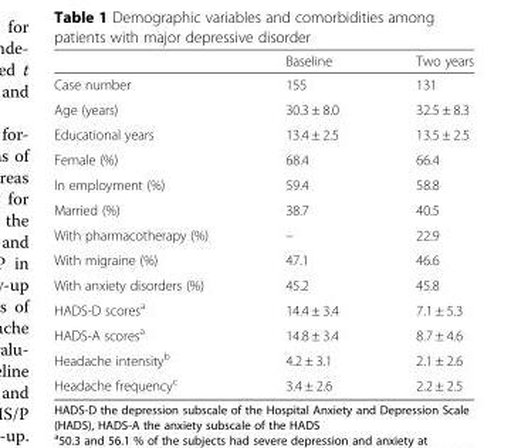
<table><thead><tr><td></td><td>Baseline</td><td>Two years</td></tr></thead><tbody><tr><td>Case number</td><td>155</td><td>131</td></tr><tr><td>Age (years)</td><td>30.3 ± 8.0</td><td>32.5 ± 8.3</td></tr><tr><td>Educational years</td><td>13.4 ± 2.5</td><td>13.5 ± 2.5</td></tr><tr><td>Female (%)</td><td>68.4</td><td>66.4</td></tr><tr><td>In employment (%)</td><td>59.4</td><td>58.8</td></tr><tr><td>Married (%)</td><td>38.7</td><td>40.5</td></tr><tr><td>With pharmacotherapy (%)</td><td>–</td><td>22.9</td></tr><tr><td>With migraine (%)</td><td>47.1</td><td>46.6</td></tr><tr><td>With anxiety disorders (%)</td><td>45.2</td><td>45.8</td></tr><tr><td>HADS-D scores<sup>a</sup></td><td>14.4 ± 3.4</td><td>7.1 ± 5.3</td></tr><tr><td>HADS-A scores<sup>a</sup></td><td>14.8 ± 3.4</td><td>8.7 ± 4.6</td></tr><tr><td>Headache intensity<sup>b</sup></td><td>4.2 ± 3.1</td><td>2.1 ± 2.6</td></tr><tr><td>Headache frequency<sup>c</sup></td><td>3.4 ± 2.6</td><td>2.2 ± 2.5</td></tr></tbody></table>